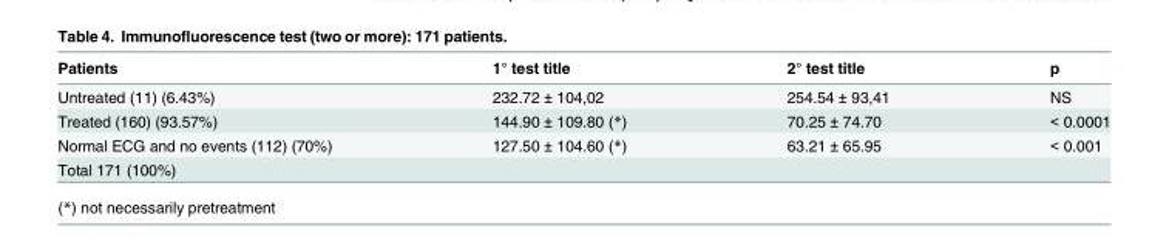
<table><thead><tr><td>Patients</td><td>1° test title</td><td>2° test title</td><td>p</td></tr></thead><tbody><tr><td>Untreated (11) (6.43%)</td><td>232.72 ± 104,02</td><td>254.54 ± 93,41</td><td>NS</td></tr><tr><td>Treated (160) (93.57%)</td><td>144.90 ± 109.80 (*)</td><td>70.25 ± 74.70</td><td>&lt; 0.0001</td></tr><tr><td>Normal ECG and no events (112) (70%)</td><td>127.50 ± 104.60 (*)</td><td>63.21 ± 65.95</td><td>&lt; 0.001</td></tr><tr><td>Total 171 (100%)</td><td></td><td></td><td></td></tr></tbody></table>